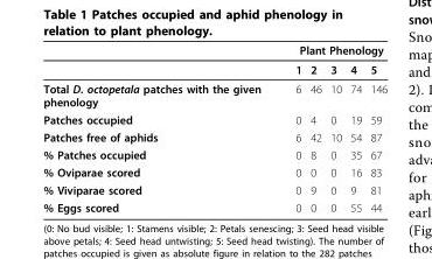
<table><thead><tr><td rowspan="2"></td><td colspan="5">Plant Phenology</td></tr><tr><td>1</td><td>2</td><td>3</td><td>4</td><td>5</td></tr></thead><tbody><tr><td>Total D. octopetala patches with the given phenology</td><td>6</td><td>46</td><td>10</td><td>74</td><td>146</td></tr><tr><td>Patches occupied</td><td>0</td><td>4</td><td>0</td><td>19</td><td>59</td></tr><tr><td>Patches free of aphids</td><td>6</td><td>42</td><td>10</td><td>54</td><td>87</td></tr><tr><td>% Patches occupied</td><td>0</td><td>8</td><td>0</td><td>35</td><td>67</td></tr><tr><td>% Oviparae scored</td><td>0</td><td>0</td><td>0</td><td>16</td><td>83</td></tr><tr><td>% Viviparae scored</td><td>0</td><td>9</td><td>0</td><td>9</td><td>81</td></tr><tr><td>% Eggs scored</td><td>0</td><td>0</td><td>0</td><td>55</td><td>44</td></tr></tbody></table>